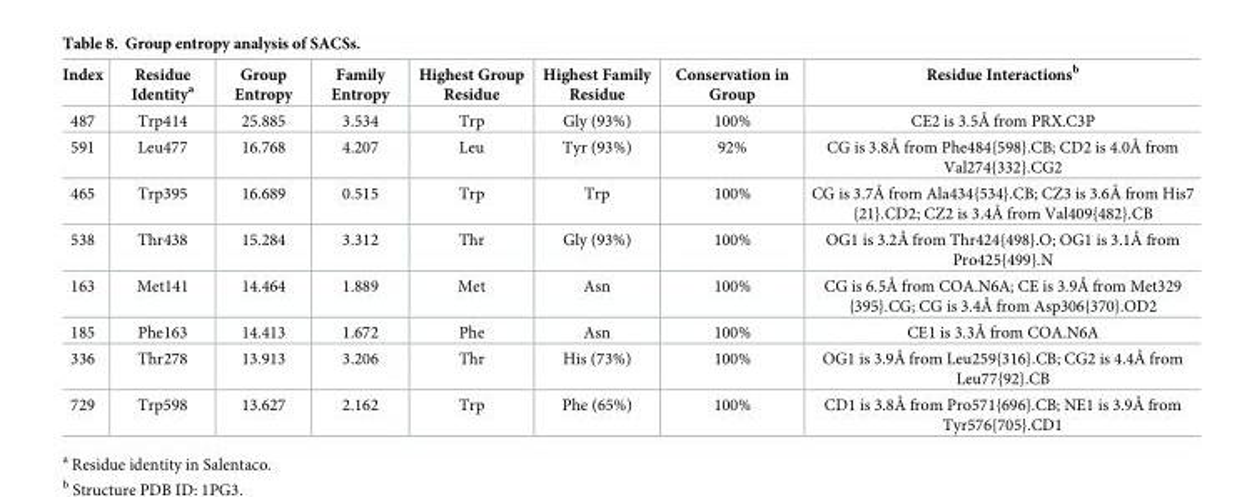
<table><thead><tr><td>Index</td><td>Residue Identity<sup>a</sup></td><td>Group Entropy</td><td>Family Entropy</td><td>Highest Group Residue</td><td>Highest Family Residue</td><td>Conservation in Group</td><td>Residue Interactions<sup>b</sup></td></tr></thead><tbody><tr><td>487</td><td>Trp414</td><td>25.885</td><td>3.534</td><td>Trp</td><td>Gly (93%)</td><td>100%</td><td>CE2 is 3.5Å from PRX.C3P</td></tr><tr><td>591</td><td>Leu477</td><td>16.768</td><td>4.207</td><td>Leu</td><td>Tyr (93%)</td><td>92%</td><td>CG is 3.8Å from Phe484{598}.CB; CD2 is 4.0Å from Val274{332}.CG2</td></tr><tr><td>465</td><td>Trp395</td><td>16.689</td><td>0.515</td><td>Trp</td><td>Trp</td><td>100%</td><td>CG is 3.7Å from Ala434{534}.CB; CZ3 is 3.6Å from His7 {21}.CD2; CZ2 is 3.4Å from Val409{482}.CB</td></tr><tr><td>538</td><td>Thr438</td><td>15.284</td><td>3.312</td><td>Thr</td><td>Gly (93%)</td><td>100%</td><td>OG1 is 3.2Å from Thr424{498}.O; OG1 is 3.1Å from Pro425{499}.N</td></tr><tr><td>163</td><td>Met141</td><td>14.464</td><td>1.889</td><td>Met</td><td>Asn</td><td>100%</td><td>CG is 6.5Å from COA.N6A; CE is 3.9Å from Met329 {395}.CG; CG is 3.4Å from Asp306{370}.OD2</td></tr><tr><td>185</td><td>Phe163</td><td>14.413</td><td>1.672</td><td>Phe</td><td>Asn</td><td>100%</td><td>CE1 is 3.3Å from COA.N6A</td></tr><tr><td>336</td><td>Thr278</td><td>13.913</td><td>3.206</td><td>Thr</td><td>His (73%)</td><td>100%</td><td>OG1 is 3.9Å from Leu259{316}.CB; CG2 is 4.4Å from Leu77{92}.CB</td></tr><tr><td>729</td><td>Trp598</td><td>13.627</td><td>2.162</td><td>Trp</td><td>Phe (65%)</td><td>100%</td><td>CD1 is 3.8Å from Pro571{696}.CB; NE1 is 3.9Å from Tyr576{705}.CD1</td></tr></tbody></table>